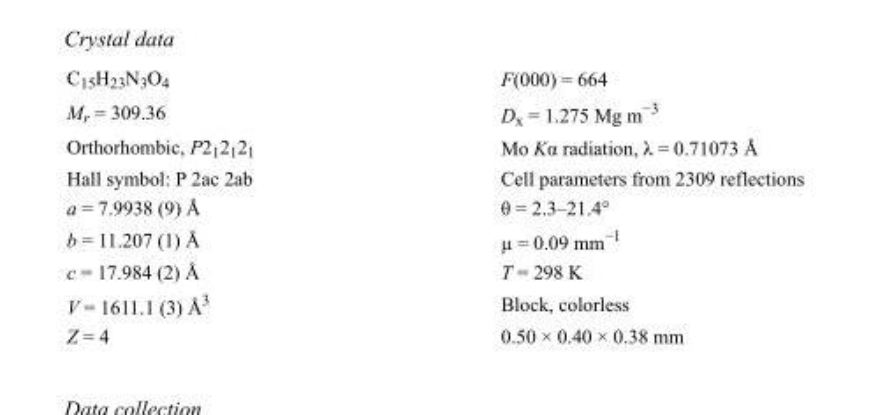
<table><tbody><tr><td>C<sub>15</sub>H<sub>23</sub>N<sub>3</sub>O<sub>4</sub></td><td>F(000) = 664</td></tr><tr><td>M<sub>r</sub> = 309.36</td><td>D<sub>x</sub> = 1.275 Mg m<sup>−3</sup></td></tr><tr><td>Orthorhombic, P2<sub>1</sub>2<sub>1</sub>2<sub>1</sub></td><td>Mo Kα radiation, λ = 0.71073 Å</td></tr><tr><td>Hall symbol: P 2ac 2ab</td><td>Cell parameters from 2309 reflections</td></tr><tr><td>a = 7.9938 (9) Å</td><td>θ = 2.3–21.4°</td></tr><tr><td>b = 11.207 (1) Å</td><td>µ = 0.09 mm<sup>−1</sup></td></tr><tr><td>c = 17.984 (2) Å</td><td>T = 298 K</td></tr><tr><td>V = 1611.1 (3) Å<sup>3</sup></td><td>Block, colorless</td></tr><tr><td>Z = 4</td><td>0.50 × 0.40 × 0.38 mm</td></tr></tbody></table>